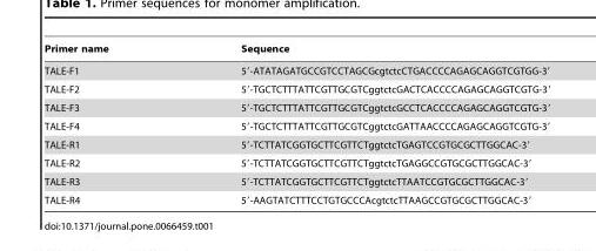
<table><thead><tr><td>Primer name</td><td>Sequence</td></tr></thead><tbody><tr><td>TALE-F1</td><td>5′-ATATAGATGCCGTCCTAGCGcgtctcCTGACCCCAGAGCAGGTCGTGG-3′</td></tr><tr><td>TALE-F2</td><td>5′-TGCTCTTTATTCGTTGCGTCggtctcGACTCACCCCAGAGCAGGTCGTG-3′</td></tr><tr><td>TALE-F3</td><td>5′-TGCTCTTTATTCGTTGCGTCggtctcGCCTCACCCCAGAGCAGGTCGTG-3′</td></tr><tr><td>TALE-F4</td><td>5′-TGCTCTTTATTCGTTGCGTCggtctcGATTAACCCCAGAGCAGGTCGTG-3′</td></tr><tr><td>TALE-R1</td><td>5′-TCTTATCGGTGCTTCGTTCTggtctcTGAGTCCGTGCGCTTGGCAC-3′</td></tr><tr><td>TALE-R2</td><td>5′-TCTTATCGGTGCTTCGTTCTggtctcTGAGGCCGTGCGCTTGGCAC-3′</td></tr><tr><td>TALE-R3</td><td>5′-TCTTATCGGTGCTTCGTTCTggtctcTTAATCCGTGCGCTTGGCAC-3′</td></tr><tr><td>TALE-R4</td><td>5′-AAGTATCTTTCCTGTGCCCAcgtctcTTAAGCCGTGCGCTTGGCAC-3′</td></tr></tbody></table>